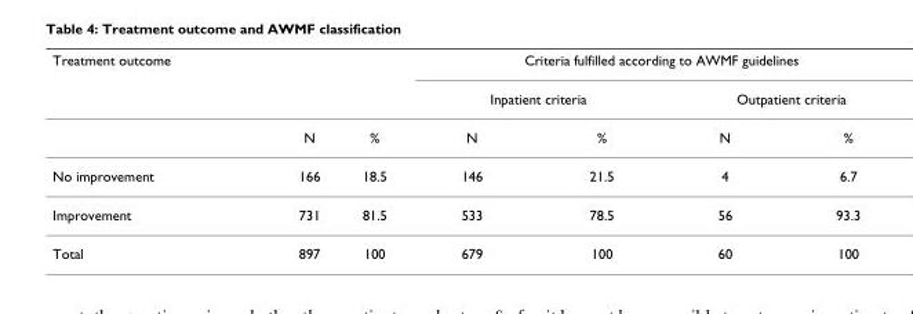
<table><thead><tr><td rowspan="3">Treatment outcome</td><td rowspan="3">N</td><td rowspan="3">%</td><td colspan="4">Criteria fulfilled according to AWMF guidelines</td></tr><tr><td colspan="2">Inpatient criteria</td><td colspan="2">Outpatient criteria</td></tr><tr><td>N</td><td>%</td><td>N</td><td>%</td></tr></thead><tbody><tr><td>No improvement</td><td>166</td><td>18.5</td><td>146</td><td>21.5</td><td>4</td><td>6.7</td></tr><tr><td>Improvement</td><td>731</td><td>81.5</td><td>533</td><td>78.5</td><td>56</td><td>93.3</td></tr><tr><td>Total</td><td>897</td><td>100</td><td>679</td><td>100</td><td>60</td><td>100</td></tr></tbody></table>